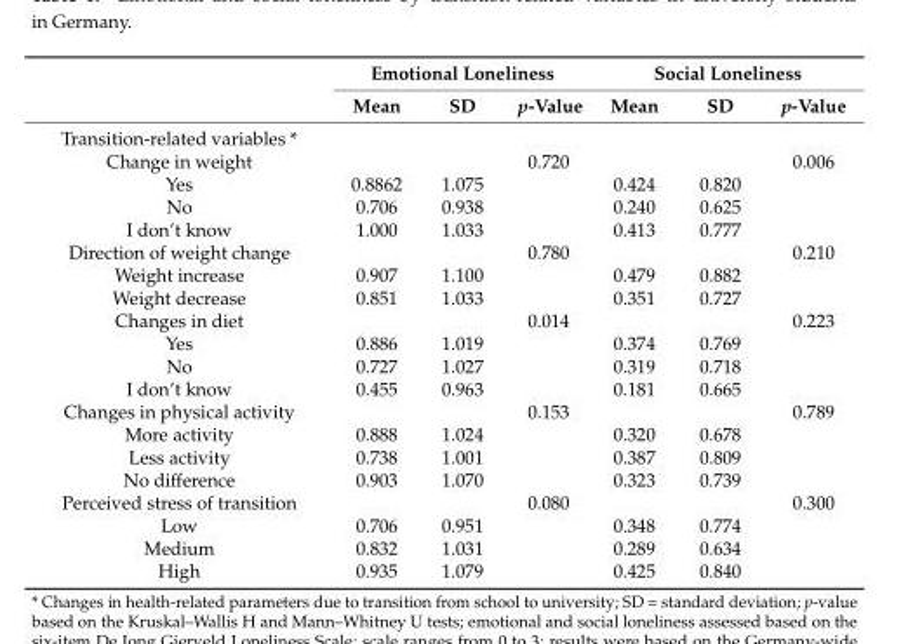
<table><thead><tr><td rowspan="2"></td><td colspan="3">Emotional Loneliness</td><td colspan="3">Social Loneliness</td></tr><tr><td>Mean</td><td>SD</td><td>p-Value</td><td>Mean</td><td>SD</td><td>p-Value</td></tr></thead><tbody><tr><td colspan="7">Transition-related variables *</td></tr><tr><td>Change in weight</td><td></td><td></td><td>0.720</td><td></td><td></td><td>0.006</td></tr><tr><td>Yes</td><td>0.8862</td><td>1.075</td><td></td><td>0.424</td><td>0.820</td><td></td></tr><tr><td>No</td><td>0.706</td><td>0.938</td><td></td><td>0.240</td><td>0.625</td><td></td></tr><tr><td>I don’t know</td><td>1.000</td><td>1.033</td><td></td><td>0.413</td><td>0.777</td><td></td></tr><tr><td>Direction of weight change</td><td></td><td></td><td>0.780</td><td></td><td></td><td>0.210</td></tr><tr><td>Weight increase</td><td>0.907</td><td>1.100</td><td></td><td>0.479</td><td>0.882</td><td></td></tr><tr><td>Weight decrease</td><td>0.851</td><td>1.033</td><td></td><td>0.351</td><td>0.727</td><td></td></tr><tr><td>Changes in diet</td><td></td><td></td><td>0.014</td><td></td><td></td><td>0.223</td></tr><tr><td>Yes</td><td>0.886</td><td>1.019</td><td></td><td>0.374</td><td>0.769</td><td></td></tr><tr><td>No</td><td>0.727</td><td>1.027</td><td></td><td>0.319</td><td>0.718</td><td></td></tr><tr><td>I don’t know</td><td>0.455</td><td>0.963</td><td></td><td>0.181</td><td>0.665</td><td></td></tr><tr><td>Changes in physical activity</td><td></td><td></td><td>0.153</td><td></td><td></td><td>0.789</td></tr><tr><td>More activity</td><td>0.888</td><td>1.024</td><td></td><td>0.320</td><td>0.678</td><td></td></tr><tr><td>Less activity</td><td>0.738</td><td>1.001</td><td></td><td>0.387</td><td>0.809</td><td></td></tr><tr><td>No difference</td><td>0.903</td><td>1.070</td><td></td><td>0.323</td><td>0.739</td><td></td></tr><tr><td>Perceived stress of transition</td><td></td><td></td><td>0.080</td><td></td><td></td><td>0.300</td></tr><tr><td>Low</td><td>0.706</td><td>0.951</td><td></td><td>0.348</td><td>0.774</td><td></td></tr><tr><td>Medium</td><td>0.832</td><td>1.031</td><td></td><td>0.289</td><td>0.634</td><td></td></tr><tr><td>High</td><td>0.935</td><td>1.079</td><td></td><td>0.425</td><td>0.840</td><td></td></tr></tbody></table>